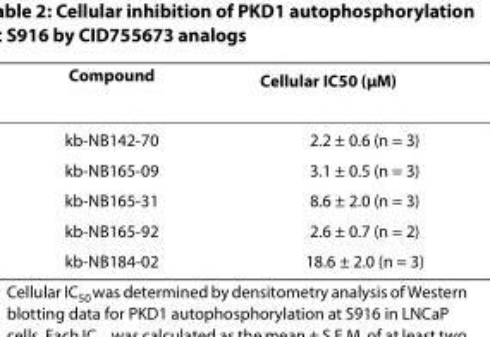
<table><thead><tr><td>Compound</td><td>Cellular IC<sub>50</sub> (μM)</td></tr></thead><tbody><tr><td>kb-NB142-70</td><td>2.2 ± 0.6 (n = 3)</td></tr><tr><td>kb-NB165-09</td><td>3.1 ± 0.5 (n = 3)</td></tr><tr><td>kb-NB165-31</td><td>8.6 ± 2.0 (n = 3)</td></tr><tr><td>kb-NB165-92</td><td>2.6 ± 0.7 (n = 2)</td></tr><tr><td>kb-NB184-02</td><td>18.6 ± 2.0 (n = 3)</td></tr></tbody></table>